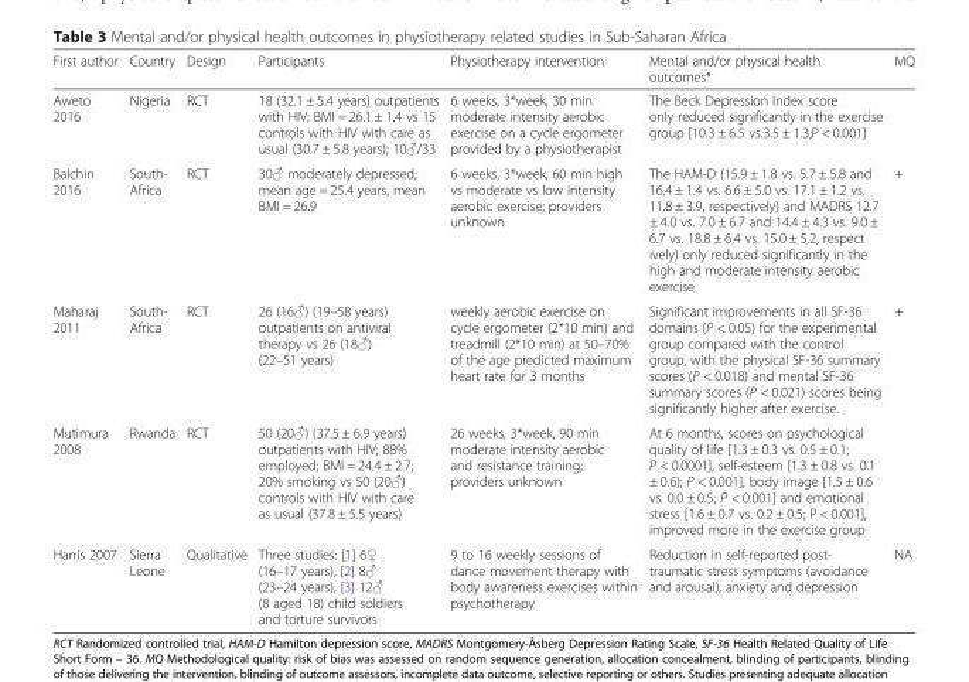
<table><thead><tr><td>First author</td><td>Country</td><td>Design</td><td>Participants</td><td>Physiotherapy intervention</td><td>Mental and/or physical health outcomes*</td><td>MQ</td></tr></thead><tbody><tr><td>Aweto 2016</td><td>Nigeria</td><td>RCT</td><td>18 (32.1 ± 5.4 years) outpatients with HIV; BMI = 26.1 ± 1.4 vs 15 controls with HIV with care as usual (30.7 ± 5.8 years); 10♂/33</td><td>6 weeks, 3*week, 30 min moderate intensity aerobic exercise on a cycle ergometer provided by a physiotherapist</td><td>The Beck Depression Index score only reduced significantly in the exercise group [10.3 ± 6.5 vs.3.5 ± 1.3;P &lt; 0.001]</td><td></td></tr><tr><td>Balchin 2016</td><td>South- Africa</td><td>RCT</td><td>30♂ moderately depressed; mean age = 25.4 years, mean BMI = 26.9</td><td>6 weeks, 3*week, 60 min high vs moderate vs low intensity aerobic exercise; providers unknown</td><td>The HAM-D (15.9 ± 1.8 vs. 5.7 ± 5.8 and 16.4 ± 1.4 vs. 6.6 ± 5.0 vs. 17.1 ± 1.2 vs. 11.8 ± 3.9, respectively) and MADRS 12.7 ± 4.0 vs. 7.0 ± 6.7 and 14.4 ± 4.3 vs. 9.0 ± 6.7 vs. 18.8 ± 6.4 vs. 15.0 ± 5.2, respect ively) only reduced significantly in the high and moderate intensity aerobic exercise</td><td>+</td></tr><tr><td>Maharaj 2011</td><td>South- Africa</td><td>RCT</td><td>26 (16♂) (19–58 years) outpatients on antiviral therapy vs 26 (18♂) (22–51 years)</td><td>weekly aerobic exercise on cycle ergometer (2*10 min) and treadmill (2*10 min) at 50–70% of the age predicted maximum heart rate for 3 months</td><td>Significant improvements in all SF-36 domains (P &lt; 0.05) for the experimental group compared with the control group, with the physical SF-36 summary scores (P &lt; 0.018) and mental SF-36 summary scores (P &lt; 0.021) scores being significantly higher after exercise.</td><td>+</td></tr><tr><td>Mutimura 2008</td><td>Rwanda</td><td>RCT</td><td>50 (20♂) (37.5 ± 6.9 years) outpatients with HIV; 88% employed; BMI = 24.4 ± 2.7; 20% smoking vs 50 (20♂) controls with HIV with care as usual (37.8 ± 5.5 years)</td><td>26 weeks, 3*week, 90 min moderate intensity aerobic and resistance training; providers unknown</td><td>At 6 months, scores on psychological quality of life [1.3 ± 0.3 vs. 0.5 ± 0.1; P &lt; 0.0001], self-esteem [1.3 ± 0.8 vs. 0.1 ± 0.6); P &lt; 0.001], body image [1.5 ± 0.6 vs. 0.0 ± 0.5; P &lt; 0.001] and emotional stress [1.6 ± 0.7 vs. 0.2 ± 0.5; P &lt; 0.001], improved more in the exercise group</td><td></td></tr><tr><td>Harris 2007</td><td>Sierra Leone</td><td>Qualitative</td><td>Three studies: [1] 6♀ (16–17 years), [2] 8♂ (23–24 years), [3] 12♂ (8 aged 18) child soldiers and torture survivors</td><td>9 to 16 weekly sessions of dance movement therapy with body awareness exercises within psychotherapy</td><td>Reduction in self-reported post- traumatic stress symptoms (avoidance and arousal), anxiety and depression</td><td>NA</td></tr></tbody></table>